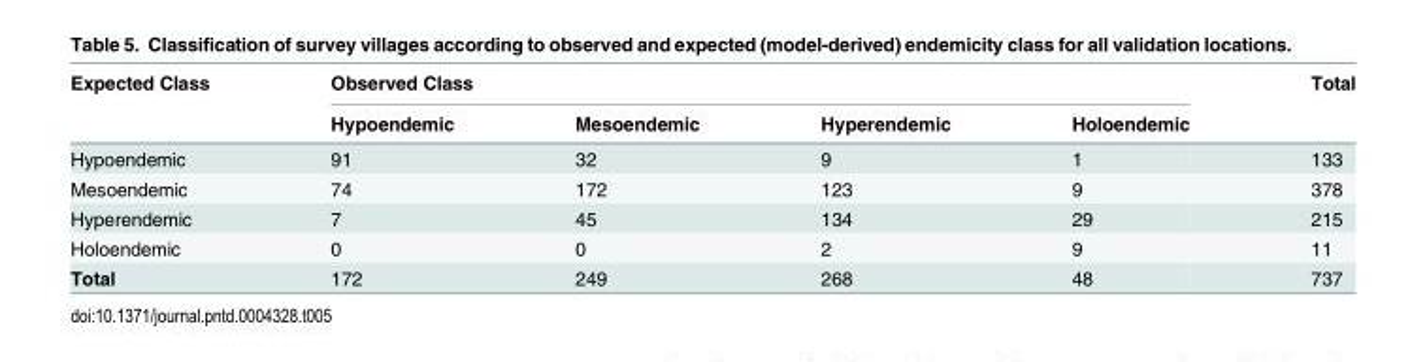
<table><thead><tr><td rowspan="2">Expected Class</td><td colspan="4">Observed Class</td><td rowspan="2">Total</td></tr><tr><td>Hypoendemic</td><td>Mesoendemic</td><td>Hyperendemic</td><td>Holoendemic</td></tr></thead><tbody><tr><td>Hypoendemic</td><td>91</td><td>32</td><td>9</td><td>1</td><td>133</td></tr><tr><td>Mesoendemic</td><td>74</td><td>172</td><td>123</td><td>9</td><td>378</td></tr><tr><td>Hyperendemic</td><td>7</td><td>45</td><td>134</td><td>29</td><td>215</td></tr><tr><td>Holoendemic</td><td>0</td><td>0</td><td>2</td><td>9</td><td>11</td></tr><tr><td>Total</td><td>172</td><td>249</td><td>268</td><td>48</td><td>737</td></tr></tbody></table>